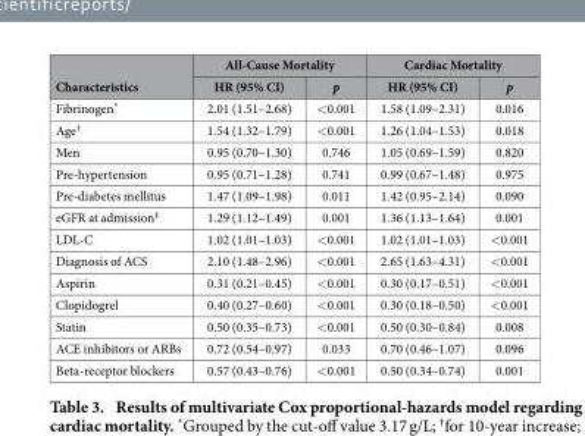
<table><thead><tr><td rowspan="2">Characteristics</td><td colspan="2">All-Cause Mortality</td><td colspan="2">Cardiac Mortality</td></tr><tr><td>HR (95% CI)</td><td>p</td><td>HR (95% CI)</td><td>p</td></tr></thead><tbody><tr><td>Fibrinogen*</td><td>2.01 (1.51–2.68)</td><td>&lt; 0.001</td><td>1.58 (1.09–2.31)</td><td>0.016</td></tr><tr><td>Age<sup>†</sup></td><td>1.54 (1.32–1.79)</td><td>&lt; 0.001</td><td>1.26 (1.04–1.53)</td><td>0.018</td></tr><tr><td>Men</td><td>0.95 (0.70–1.30)</td><td>0.746</td><td>1.05 (0.69–1.59)</td><td>0.820</td></tr><tr><td>Pre-hypertension</td><td>0.95 (0.71–1.28)</td><td>0.741</td><td>0.99 (0.67–1.48)</td><td>0.975</td></tr><tr><td>Pre-diabetes mellitus</td><td>1.47 (1.09–1.98)</td><td>0.011</td><td>1.42 (0.95–2.14)</td><td>0.090</td></tr><tr><td>eGFR at admission<sup>‡</sup></td><td>1.29 (1.12–1.49)</td><td>0.001</td><td>1.36 (1.13–1.64)</td><td>0.001</td></tr><tr><td>LDL-C</td><td>1.02 (1.01–1.03)</td><td>&lt; 0.001</td><td>1.02 (1.01–1.03)</td><td>&lt; 0.001</td></tr><tr><td>Diagnosis of ACS</td><td>2.10 (1.48–2.96)</td><td>&lt; 0.001</td><td>2.65 (1.63–4.31)</td><td>&lt; 0.001</td></tr><tr><td>Aspirin</td><td>0.31 (0.21–0.45)</td><td>&lt; 0.001</td><td>0.30 (0.17–0.51)</td><td>&lt; 0.001</td></tr><tr><td>Clopidogrel</td><td>0.40 (0.27–0.60)</td><td>&lt; 0.001</td><td>0.30 (0.18–0.50)</td><td>&lt; 0.001</td></tr><tr><td>Statin</td><td>0.50 (0.35–0.73)</td><td>&lt; 0.001</td><td>0.50 (0.30–0.84)</td><td>0.008</td></tr><tr><td>ACE inhibitors or ARBs</td><td>0.72 (0.54–0.97)</td><td>0.033</td><td>0.70 (0.46–1.07)</td><td>0.096</td></tr><tr><td>Beta-receptor blockers</td><td>0.57 (0.43–0.76)</td><td>&lt; 0.001</td><td>0.50 (0.34–0.74)</td><td>0.001</td></tr></tbody></table>